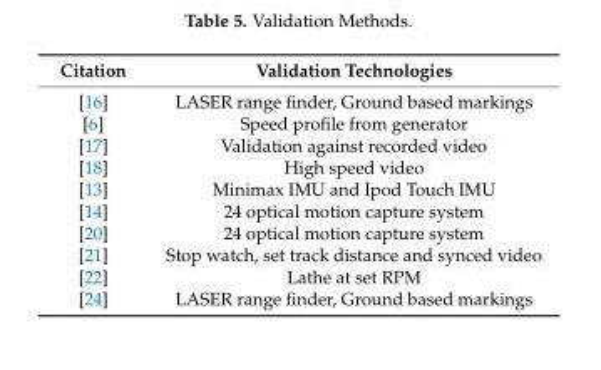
<table><thead><tr><td>Citation</td><td>Validation Technologies</td></tr></thead><tbody><tr><td>[16]</td><td>LASER range finder, Ground based markings</td></tr><tr><td>[6]</td><td>Speed profile from generator</td></tr><tr><td>[17]</td><td>Validation against recorded video</td></tr><tr><td>[18]</td><td>High speed video</td></tr><tr><td>[13]</td><td>Minimax IMU and Ipod Touch IMU</td></tr><tr><td>[14]</td><td>24 optical motion capture system</td></tr><tr><td>[20]</td><td>24 optical motion capture system</td></tr><tr><td>[21]</td><td>Stop watch, set track distance and synced video</td></tr><tr><td>[22]</td><td>Lathe at set RPM</td></tr><tr><td>[24]</td><td>LASER range finder, Ground based markings</td></tr></tbody></table>